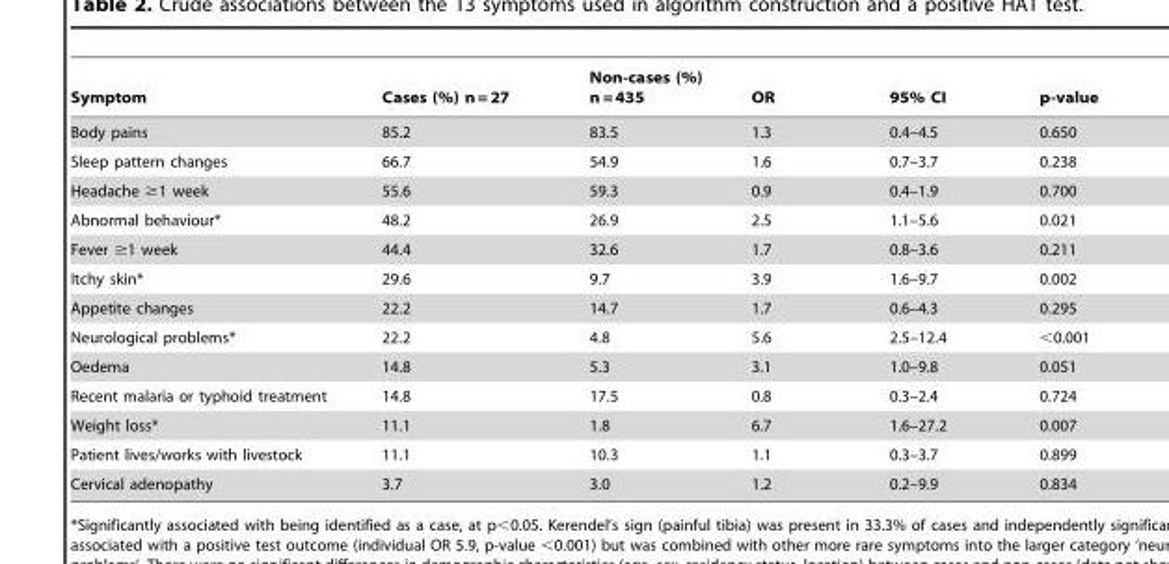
<table><thead><tr><td>Symptom</td><td>Cases (%) n = 27</td><td>Non-cases (%) n = 435</td><td>OR</td><td>95% CI</td><td>p-value</td></tr></thead><tbody><tr><td>Body pains</td><td>85.2</td><td>83.5</td><td>1.3</td><td>0.4–4.5</td><td>0.650</td></tr><tr><td>Sleep pattern changes</td><td>66.7</td><td>54.9</td><td>1.6</td><td>0.7–3.7</td><td>0.238</td></tr><tr><td>Headache ≥1 week</td><td>55.6</td><td>59.3</td><td>0.9</td><td>0.4–1.9</td><td>0.700</td></tr><tr><td>Abnormal behaviour*</td><td>48.2</td><td>26.9</td><td>2.5</td><td>1.1–5.6</td><td>0.021</td></tr><tr><td>Fever ≥1 week</td><td>44.4</td><td>32.6</td><td>1.7</td><td>0.8–3.6</td><td>0.211</td></tr><tr><td>Itchy skin*</td><td>29.6</td><td>9.7</td><td>3.9</td><td>1.6–9.7</td><td>0.002</td></tr><tr><td>Appetite changes</td><td>22.2</td><td>14.7</td><td>1.7</td><td>0.6–4.3</td><td>0.295</td></tr><tr><td>Neurological problems*</td><td>22.2</td><td>4.8</td><td>5.6</td><td>2.5–12.4</td><td>&lt;0.001</td></tr><tr><td>Oedema</td><td>14.8</td><td>5.3</td><td>3.1</td><td>1.0–9.8</td><td>0.051</td></tr><tr><td>Recent malaria or typhoid treatment</td><td>14.8</td><td>17.5</td><td>0.8</td><td>0.3–2.4</td><td>0.724</td></tr><tr><td>Weight loss*</td><td>11.1</td><td>1.8</td><td>6.7</td><td>1.6–27.2</td><td>0.007</td></tr><tr><td>Patient lives/works with livestock</td><td>11.1</td><td>10.3</td><td>1.1</td><td>0.3–3.7</td><td>0.899</td></tr><tr><td>Cervical adenopathy</td><td>3.7</td><td>3.0</td><td>1.2</td><td>0.2–9.9</td><td>0.834</td></tr></tbody></table>